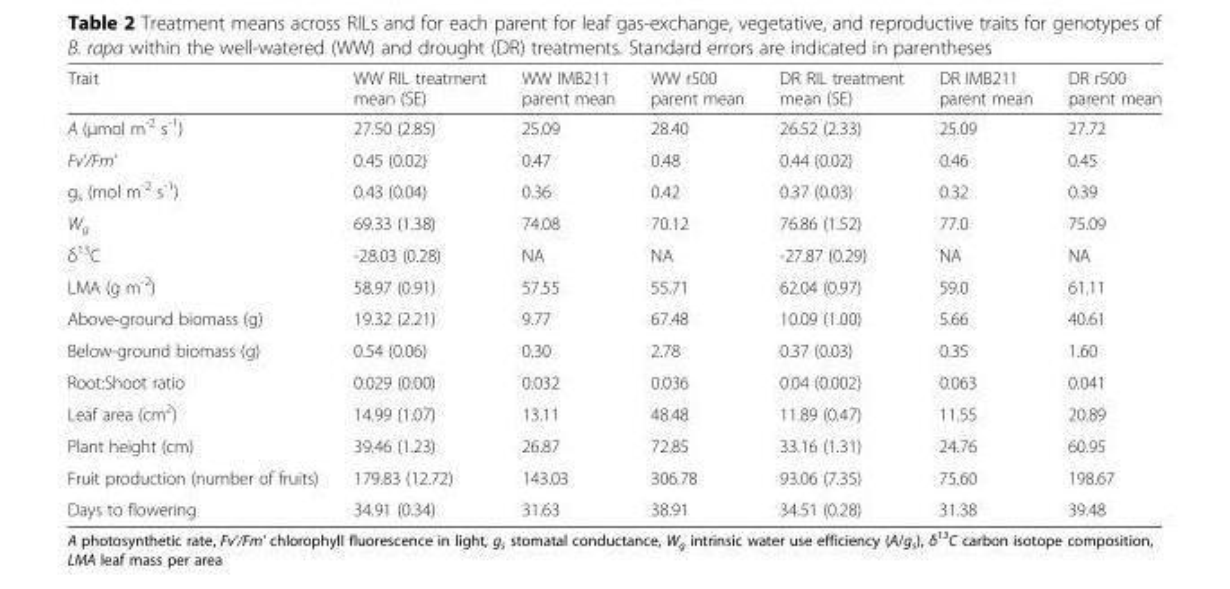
<table><thead><tr><td>Trait</td><td>WW RIL treatment mean (SE)</td><td>WW IMB211 parent mean</td><td>WW r500 parent mean</td><td>DR RIL treatment mean (SE)</td><td>DR IMB211 parent mean</td><td>DR r500 parent mean</td></tr></thead><tbody><tr><td>A (μmol m<sup>-2</sup> s<sup>-1</sup>)</td><td>27.50 (2.85)</td><td>25.09</td><td>28.40</td><td>26.52 (2.33)</td><td>25.09</td><td>27.72</td></tr><tr><td>Fv&#x27;/Fm&#x27;</td><td>0.45 (0.02)</td><td>0.47</td><td>0.48</td><td>0.44 (0.02)</td><td>0.46</td><td>0.45</td></tr><tr><td>g<sub>s</sub> (mol m<sup>-2</sup> s<sup>-1</sup>)</td><td>0.43 (0.04)</td><td>0.36</td><td>0.42</td><td>0.37 (0.03)</td><td>0.32</td><td>0.39</td></tr><tr><td>W<sub>g</sub></td><td>69.33 (1.38)</td><td>74.08</td><td>70.12</td><td>76.86 (1.52)</td><td>77.0</td><td>75.09</td></tr><tr><td>δ<sup>13</sup>C</td><td>-28.03 (0.28)</td><td>NA</td><td>NA</td><td>-27.87 (0.29)</td><td>NA</td><td>NA</td></tr><tr><td>LMA (g m<sup>-2</sup>)</td><td>58.97 (0.91)</td><td>57.55</td><td>55.71</td><td>62.04 (0.97)</td><td>59.0</td><td>61.11</td></tr><tr><td>Above-ground biomass (g)</td><td>19.32 (2.21)</td><td>9.77</td><td>67.48</td><td>10.09 (1.00)</td><td>5.66</td><td>40.61</td></tr><tr><td>Below-ground biomass (g)</td><td>0.54 (0.06)</td><td>0.30</td><td>2.78</td><td>0.37 (0.03)</td><td>0.35</td><td>1.60</td></tr><tr><td>Root:Shoot ratio</td><td>0.029 (0.00)</td><td>0.032</td><td>0.036</td><td>0.04 (0.002)</td><td>0.063</td><td>0.041</td></tr><tr><td>Leaf area (cm<sup>2</sup>)</td><td>14.99 (1.07)</td><td>13.11</td><td>48.48</td><td>11.89 (0.47)</td><td>11.55</td><td>20.89</td></tr><tr><td>Plant height (cm)</td><td>39.46 (1.23)</td><td>26.87</td><td>72.85</td><td>33.16 (1.31)</td><td>24.76</td><td>60.95</td></tr><tr><td>Fruit production (number of fruits)</td><td>179.83 (12.72)</td><td>143.03</td><td>306.78</td><td>93.06 (7.35)</td><td>75.60</td><td>198.67</td></tr><tr><td>Days to flowering</td><td>34.91 (0.34)</td><td>31.63</td><td>38.91</td><td>34.51 (0.28)</td><td>31.38</td><td>39.48</td></tr></tbody></table>